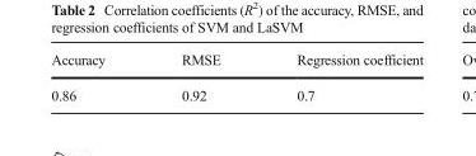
<table><thead><tr><td>Accuracy</td><td>RMSE</td><td>Regression coefficient</td></tr></thead><tbody><tr><td>0.86</td><td>0.92</td><td>0.7</td></tr></tbody></table>